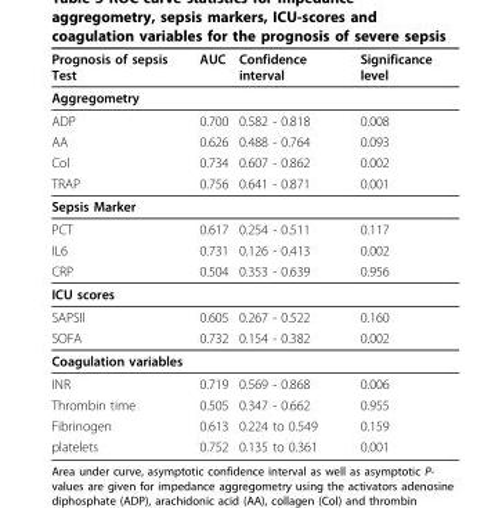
<table><thead><tr><td>Prognosis of sepsis Test</td><td>AUC</td><td>Confidence interval</td><td>Significance level</td></tr></thead><tbody><tr><td colspan="4">Aggregometry</td></tr><tr><td>ADP</td><td>0.700</td><td>0.582 - 0.818</td><td>0.008</td></tr><tr><td>AA</td><td>0.626</td><td>0.488 - 0.764</td><td>0.093</td></tr><tr><td>Col</td><td>0.734</td><td>0.607 - 0.862</td><td>0.002</td></tr><tr><td>TRAP</td><td>0.756</td><td>0.641 - 0.871</td><td>0.001</td></tr><tr><td colspan="4">Sepsis Marker</td></tr><tr><td>PCT</td><td>0.617</td><td>0.254 - 0.511</td><td>0.117</td></tr><tr><td>IL6</td><td>0.731</td><td>0.126 - 0.413</td><td>0.002</td></tr><tr><td>CRP</td><td>0.504</td><td>0.353 - 0.639</td><td>0.956</td></tr><tr><td colspan="4">ICU scores</td></tr><tr><td>SAPSII</td><td>0.605</td><td>0.267 - 0.522</td><td>0.160</td></tr><tr><td>SOFA</td><td>0.732</td><td>0.154 - 0.382</td><td>0.002</td></tr><tr><td colspan="4">Coagulation variables</td></tr><tr><td>INR</td><td>0.719</td><td>0.569 - 0.868</td><td>0.006</td></tr><tr><td>Thrombin time</td><td>0.505</td><td>0.347 - 0.662</td><td>0.955</td></tr><tr><td>Fibrinogen</td><td>0.613</td><td>0.224 to 0.549</td><td>0.159</td></tr><tr><td>platelets</td><td>0.752</td><td>0.135 to 0.361</td><td>0.001</td></tr></tbody></table>